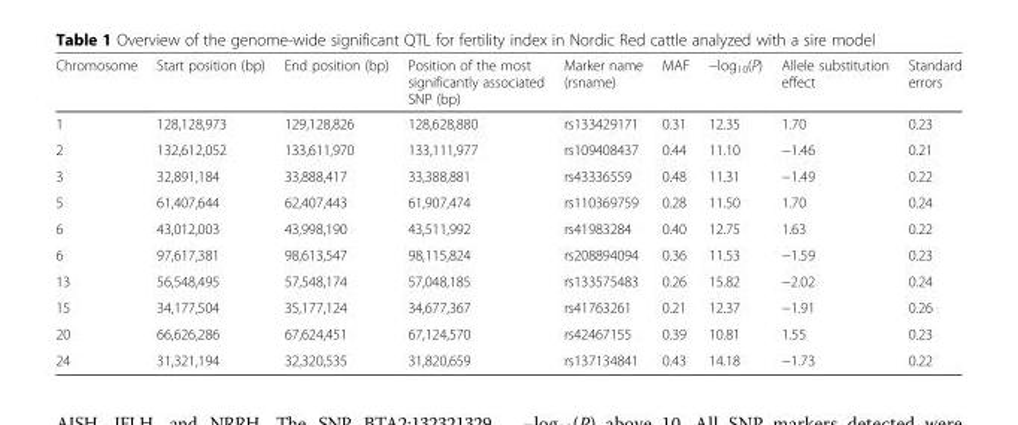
<table><thead><tr><td>Chromosome</td><td>Start position (bp)</td><td>End position (bp)</td><td>Position of the most significantly associated SNP (bp)</td><td>Marker name (rsname)</td><td>MAF</td><td>−log<sub>10</sub>(P)</td><td>Allele substitution effect</td><td>Standard errors</td></tr></thead><tbody><tr><td>1</td><td>128,128,973</td><td>129,128,826</td><td>128,628,880</td><td>rs133429171</td><td>0.31</td><td>12.35</td><td>1.70</td><td>0.23</td></tr><tr><td>2</td><td>132,612,052</td><td>133,611,970</td><td>133,111,977</td><td>rs109408437</td><td>0.44</td><td>11.10</td><td>−1.46</td><td>0.21</td></tr><tr><td>3</td><td>32,891,184</td><td>33,888,417</td><td>33,388,881</td><td>rs43336559</td><td>0.48</td><td>11.31</td><td>−1.49</td><td>0.22</td></tr><tr><td>5</td><td>61,407,644</td><td>62,407,443</td><td>61,907,474</td><td>rs110369759</td><td>0.28</td><td>11.50</td><td>1.70</td><td>0.24</td></tr><tr><td>6</td><td>43,012,003</td><td>43,998,190</td><td>43,511,992</td><td>rs41983284</td><td>0.40</td><td>12.75</td><td>1.63</td><td>0.22</td></tr><tr><td>6</td><td>97,617,381</td><td>98,613,547</td><td>98,115,824</td><td>rs208894094</td><td>0.36</td><td>11.53</td><td>−1.59</td><td>0.23</td></tr><tr><td>13</td><td>56,548,495</td><td>57,548,174</td><td>57,048,185</td><td>rs133575483</td><td>0.26</td><td>15.82</td><td>−2.02</td><td>0.24</td></tr><tr><td>15</td><td>34,177,504</td><td>35,177,124</td><td>34,677,367</td><td>rs41763261</td><td>0.21</td><td>12.37</td><td>−1.91</td><td>0.26</td></tr><tr><td>20</td><td>66,626,286</td><td>67,624,451</td><td>67,124,570</td><td>rs42467155</td><td>0.39</td><td>10.81</td><td>1.55</td><td>0.23</td></tr><tr><td>24</td><td>31,321,194</td><td>32,320,535</td><td>31,820,659</td><td>rs137134841</td><td>0.43</td><td>14.18</td><td>−1.73</td><td>0.22</td></tr></tbody></table>